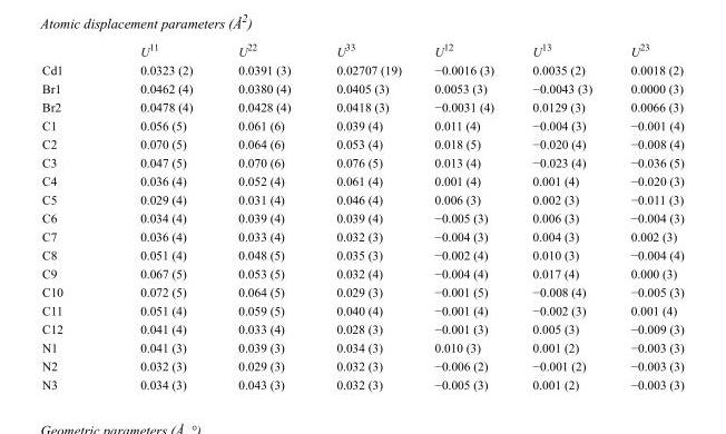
<table><thead><tr><td></td><td>U<sup>11</sup></td><td>U<sup>22</sup></td><td>U<sup>33</sup></td><td>U<sup>12</sup></td><td>U<sup>13</sup></td><td>U<sup>23</sup></td></tr></thead><tbody><tr><td>Cd1</td><td>0.0323 (2)</td><td>0.0391 (3)</td><td>0.02707 (19)</td><td>−0.0016 (3)</td><td>0.0035 (2)</td><td>0.0018 (2)</td></tr><tr><td>Br1</td><td>0.0462 (4)</td><td>0.0380 (4)</td><td>0.0405 (3)</td><td>0.0053 (3)</td><td>−0.0043 (3)</td><td>0.0000 (3)</td></tr><tr><td>Br2</td><td>0.0478 (4)</td><td>0.0428 (4)</td><td>0.0418 (3)</td><td>−0.0031 (4)</td><td>0.0129 (3)</td><td>0.0066 (3)</td></tr><tr><td>C1</td><td>0.056 (5)</td><td>0.061 (6)</td><td>0.039 (4)</td><td>0.011 (4)</td><td>−0.004 (3)</td><td>−0.001 (4)</td></tr><tr><td>C2</td><td>0.070 (5)</td><td>0.064 (6)</td><td>0.053 (4)</td><td>0.018 (5)</td><td>−0.020 (4)</td><td>−0.008 (4)</td></tr><tr><td>C3</td><td>0.047 (5)</td><td>0.070 (6)</td><td>0.076 (5)</td><td>0.013 (4)</td><td>−0.023 (4)</td><td>−0.036 (5)</td></tr><tr><td>C4</td><td>0.036 (4)</td><td>0.052 (4)</td><td>0.061 (4)</td><td>0.001 (4)</td><td>0.001 (4)</td><td>−0.020 (3)</td></tr><tr><td>C5</td><td>0.029 (4)</td><td>0.031 (4)</td><td>0.046 (4)</td><td>0.006 (3)</td><td>0.002 (3)</td><td>−0.011 (3)</td></tr><tr><td>C6</td><td>0.034 (4)</td><td>0.039 (4)</td><td>0.039 (4)</td><td>−0.005 (3)</td><td>0.006 (3)</td><td>−0.004 (3)</td></tr><tr><td>C7</td><td>0.036 (4)</td><td>0.033 (4)</td><td>0.032 (3)</td><td>−0.004 (3)</td><td>0.004 (3)</td><td>0.002 (3)</td></tr><tr><td>C8</td><td>0.051 (4)</td><td>0.048 (5)</td><td>0.035 (3)</td><td>−0.002 (4)</td><td>0.010 (3)</td><td>−0.004 (4)</td></tr><tr><td>C9</td><td>0.067 (5)</td><td>0.053 (5)</td><td>0.032 (4)</td><td>−0.004 (4)</td><td>0.017 (4)</td><td>0.000 (3)</td></tr><tr><td>C10</td><td>0.072 (5)</td><td>0.064 (5)</td><td>0.029 (3)</td><td>−0.001 (5)</td><td>−0.008 (4)</td><td>−0.005 (3)</td></tr><tr><td>C11</td><td>0.051 (4)</td><td>0.059 (5)</td><td>0.040 (4)</td><td>−0.001 (4)</td><td>−0.002 (3)</td><td>0.001 (4)</td></tr><tr><td>C12</td><td>0.041 (4)</td><td>0.033 (4)</td><td>0.028 (3)</td><td>−0.001 (3)</td><td>0.005 (3)</td><td>−0.009 (3)</td></tr><tr><td>N1</td><td>0.041 (3)</td><td>0.039 (3)</td><td>0.034 (3)</td><td>0.010 (3)</td><td>0.001 (2)</td><td>−0.003 (3)</td></tr><tr><td>N2</td><td>0.032 (3)</td><td>0.029 (3)</td><td>0.032 (3)</td><td>−0.006 (2)</td><td>−0.001 (2)</td><td>−0.003 (3)</td></tr><tr><td>N3</td><td>0.034 (3)</td><td>0.043 (3)</td><td>0.032 (3)</td><td>−0.005 (3)</td><td>0.001 (2)</td><td>−0.003 (3)</td></tr></tbody></table>